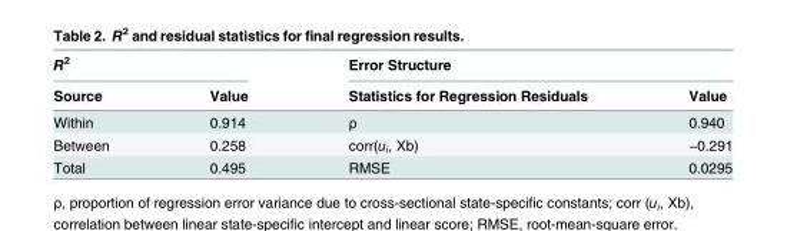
<table><thead><tr><td colspan="2">R<sup>2</sup></td><td colspan="2">Error Structure</td></tr><tr><td>Source</td><td>Value</td><td>Statistics for Regression Residuals</td><td>Value</td></tr></thead><tbody><tr><td>Within</td><td>0.914</td><td>ρ</td><td>0.940</td></tr><tr><td>Between</td><td>0.258</td><td>corr(u<sub>i</sub>, Xb)</td><td>−0.291</td></tr><tr><td>Total</td><td>0.495</td><td>RMSE</td><td>0.0295</td></tr></tbody></table>